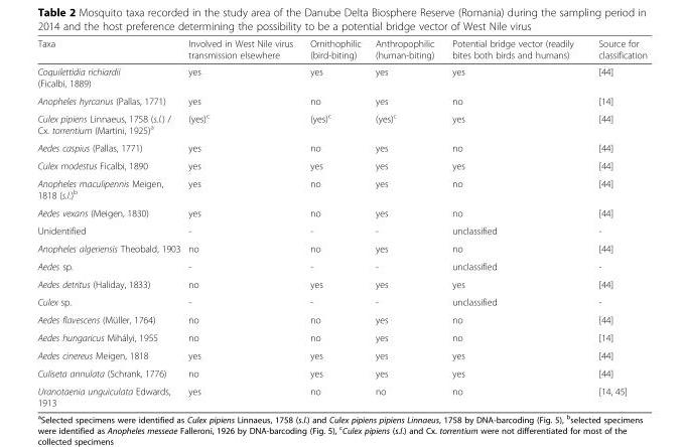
<table><thead><tr><td>Taxa</td><td>Involved in West Nile virus transmission elsewhere</td><td>Ornithophilic (bird-biting)</td><td>Anthropophilic (human-biting)</td><td>Potential bridge vector (readily bites both birds and humans)</td><td>Source for classification</td></tr></thead><tbody><tr><td>Coquilettidia richiardii (Ficalbi, 1889)</td><td>yes</td><td>yes</td><td>yes</td><td>yes</td><td>[44]</td></tr><tr><td>Anopheles hyrcanus (Pallas, 1771)</td><td>yes</td><td>no</td><td>yes</td><td>no</td><td>[14]</td></tr><tr><td>Culex pipiens Linnaeus, 1758 (s.l.) / Cx. torrentium (Martini, 1925)<sup>a</sup></td><td>(yes)<sup>c</sup></td><td>(yes)<sup>c</sup></td><td>(yes)<sup>c</sup></td><td>yes</td><td>[44]</td></tr><tr><td>Aedes caspius (Pallas, 1771)</td><td>yes</td><td>no</td><td>yes</td><td>no</td><td>[44]</td></tr><tr><td>Culex modestus Ficalbi, 1890</td><td>yes</td><td>yes</td><td>yes</td><td>yes</td><td>[44]</td></tr><tr><td>Anopheles maculipennis Meigen, 1818 (s.l.)<sup>b</sup></td><td>yes</td><td>no</td><td>yes</td><td>no</td><td>[44]</td></tr><tr><td>Aedes vexans (Meigen, 1830)</td><td>yes</td><td>no</td><td>yes</td><td>no</td><td>[44]</td></tr><tr><td>Unidentified</td><td>-</td><td>-</td><td>-</td><td>unclassified</td><td>-</td></tr><tr><td>Anopheles algeriensis Theobald, 1903</td><td>no</td><td>no</td><td>yes</td><td>no</td><td>[44]</td></tr><tr><td>Aedes sp.</td><td>-</td><td>-</td><td>-</td><td>unclassified</td><td>-</td></tr><tr><td>Aedes detritus (Haliday, 1833)</td><td>no</td><td>yes</td><td>yes</td><td>yes</td><td>[44]</td></tr><tr><td>Culex sp.</td><td>-</td><td>-</td><td>-</td><td>unclassified</td><td>-</td></tr><tr><td>Aedes flavescens (Müller, 1764)</td><td>no</td><td>no</td><td>yes</td><td>no</td><td>[44]</td></tr><tr><td>Aedes hungaricus Mihályi, 1955</td><td>no</td><td>no</td><td>yes</td><td>no</td><td>[14]</td></tr><tr><td>Aedes cinereus Meigen, 1818</td><td>yes</td><td>yes</td><td>yes</td><td>yes</td><td>[44]</td></tr><tr><td>Culiseta annulata (Schrank, 1776)</td><td>no</td><td>yes</td><td>yes</td><td>yes</td><td>[44]</td></tr><tr><td>Uranotaenia unguiculata Edwards, 1913</td><td>yes</td><td>no</td><td>no</td><td>no</td><td>[14, 45]</td></tr></tbody></table>